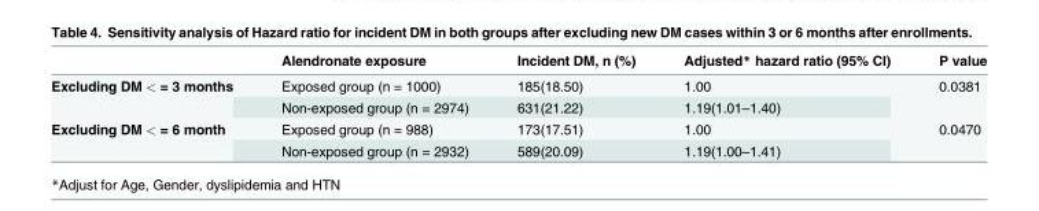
<table><thead><tr><td></td><td>Alendronate exposure</td><td>Incident DM, n (%)</td><td>Adjusted* hazard ratio (95% CI)</td><td>P value</td></tr></thead><tbody><tr><td rowspan="2">Excluding DM &lt; = 3 months</td><td>Exposed group (n = 1000)</td><td>185(18.50)</td><td>1.00</td><td rowspan="2">0.0381</td></tr><tr><td>Non-exposed group (n = 2974)</td><td>631(21.22)</td><td>1.19(1.01–1.40)</td></tr><tr><td rowspan="2">Excluding DM &lt; = 6 month</td><td>Exposed group (n = 988)</td><td>173(17.51)</td><td>1.00</td><td rowspan="2">0.0470</td></tr><tr><td>Non-exposed group (n = 2932)</td><td>589(20.09)</td><td>1.19(1.00–1.41)</td></tr></tbody></table>